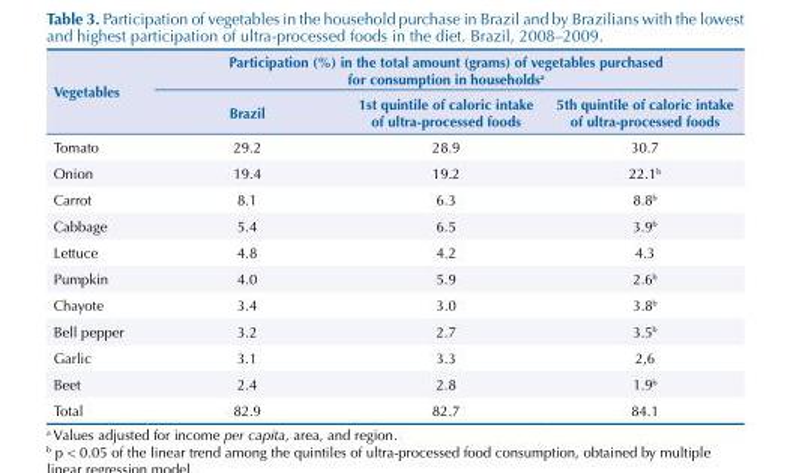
<table><thead><tr><td rowspan="2">Vegetables</td><td colspan="3">Participation (%) in the total amount (grams) of vegetables purchased for consumption in households<sup>a</sup></td></tr><tr><td>Brazil</td><td>1st quintile of caloric intake of ultra-processed foods</td><td>5th quintile of caloric intake of ultra-processed foods</td></tr></thead><tbody><tr><td>Tomato</td><td>29.2</td><td>28.9</td><td>30.7</td></tr><tr><td>Onion</td><td>19.4</td><td>19.2</td><td>22.1<sup>b</sup></td></tr><tr><td>Carrot</td><td>8.1</td><td>6.3</td><td>8.8<sup>b</sup></td></tr><tr><td>Cabbage</td><td>5.4</td><td>6.5</td><td>3.9<sup>b</sup></td></tr><tr><td>Lettuce</td><td>4.8</td><td>4.2</td><td>4.3</td></tr><tr><td>Pumpkin</td><td>4.0</td><td>5.9</td><td>2.6<sup>b</sup></td></tr><tr><td>Chayote</td><td>3.4</td><td>3.0</td><td>3.8<sup>b</sup></td></tr><tr><td>Bell pepper</td><td>3.2</td><td>2.7</td><td>3.5<sup>b</sup></td></tr><tr><td>Garlic</td><td>3.1</td><td>3.3</td><td>2,6</td></tr><tr><td>Beet</td><td>2.4</td><td>2.8</td><td>1.9<sup>b</sup></td></tr><tr><td>Total</td><td>82.9</td><td>82.7</td><td>84.1</td></tr></tbody></table>